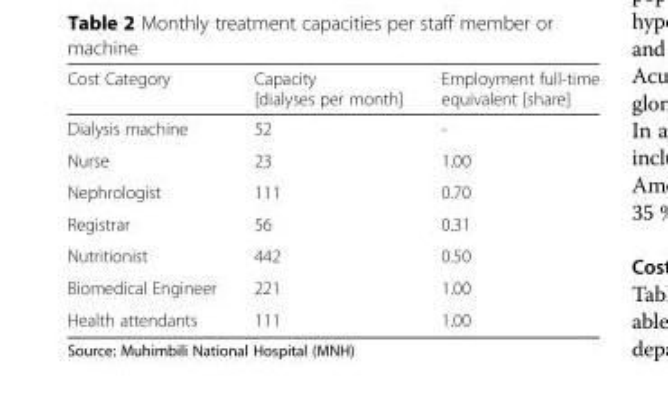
<table><thead><tr><td>Cost Category</td><td>Capacity [dialyses per month]</td><td>Employment full-time equivalent [share]</td></tr></thead><tbody><tr><td>Dialysis machine</td><td>52</td><td>-</td></tr><tr><td>Nurse</td><td>23</td><td>1.00</td></tr><tr><td>Nephrologist</td><td>111</td><td>0.70</td></tr><tr><td>Registrar</td><td>56</td><td>0.31</td></tr><tr><td>Nutritionist</td><td>442</td><td>0.50</td></tr><tr><td>Biomedical Engineer</td><td>221</td><td>1.00</td></tr><tr><td>Health attendants</td><td>111</td><td>1.00</td></tr></tbody></table>